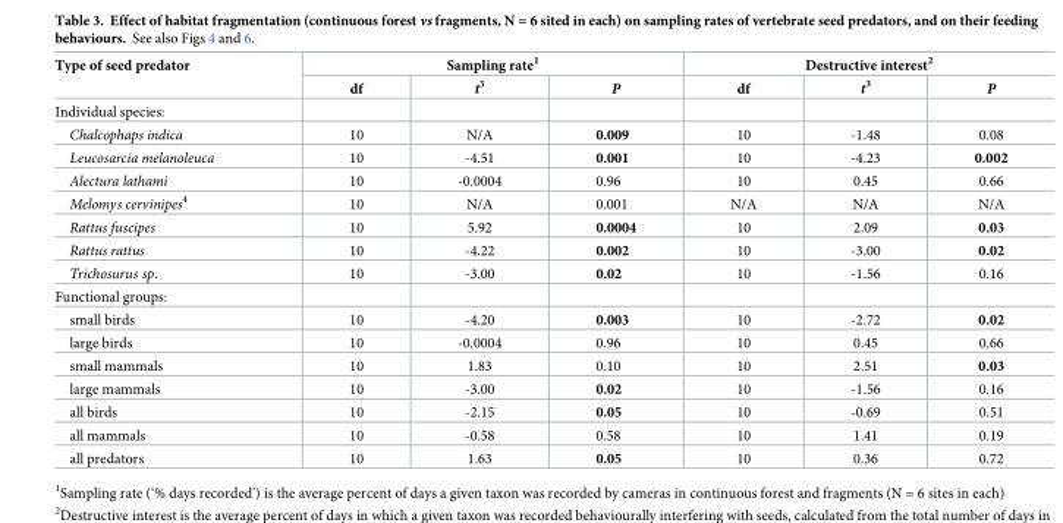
<table><thead><tr><td rowspan="2">Type of seed predator</td><td colspan="3">Sampling rate<sup>1</sup></td><td colspan="3">Destructive interest<sup>2</sup></td></tr><tr><td>df</td><td>t<sup>3</sup></td><td>P</td><td>df</td><td>t<sup>3</sup></td><td>P</td></tr></thead><tbody><tr><td colspan="7">Individual species:</td></tr><tr><td>Chalcophaps indica</td><td>10</td><td>N/A</td><td>0.009</td><td>10</td><td>-1.48</td><td>0.08</td></tr><tr><td>Leucosarcia melanoleuca</td><td>10</td><td>-4.51</td><td>0.001</td><td>10</td><td>-4.23</td><td>0.002</td></tr><tr><td>Alectura lathami</td><td>10</td><td>-0.0004</td><td>0.96</td><td>10</td><td>0.45</td><td>0.66</td></tr><tr><td>Melomys cervinipes<sup>4</sup></td><td>10</td><td>N/A</td><td>0.001</td><td>N/A</td><td>N/A</td><td>N/A</td></tr><tr><td>Rattus fuscipes</td><td>10</td><td>5.92</td><td>0.0004</td><td>10</td><td>2.09</td><td>0.03</td></tr><tr><td>Rattus rattus</td><td>10</td><td>-4.22</td><td>0.002</td><td>10</td><td>-3.00</td><td>0.02</td></tr><tr><td>Trichosurus sp.</td><td>10</td><td>-3.00</td><td>0.02</td><td>10</td><td>-1.56</td><td>0.16</td></tr><tr><td colspan="7">Functional groups:</td></tr><tr><td>small birds</td><td>10</td><td>-4.20</td><td>0.003</td><td>10</td><td>-2.72</td><td>0.02</td></tr><tr><td>large birds</td><td>10</td><td>-0.0004</td><td>0.96</td><td>10</td><td>0.45</td><td>0.66</td></tr><tr><td>small mammals</td><td>10</td><td>1.83</td><td>0.10</td><td>10</td><td>2.51</td><td>0.03</td></tr><tr><td>large mammals</td><td>10</td><td>-3.00</td><td>0.02</td><td>10</td><td>-1.56</td><td>0.16</td></tr><tr><td>all birds</td><td>10</td><td>-2.15</td><td>0.05</td><td>10</td><td>-0.69</td><td>0.51</td></tr><tr><td>all mammals</td><td>10</td><td>-0.58</td><td>0.58</td><td>10</td><td>1.41</td><td>0.19</td></tr><tr><td>all predators</td><td>10</td><td>1.63</td><td>0.05</td><td>10</td><td>0.36</td><td>0.72</td></tr></tbody></table>